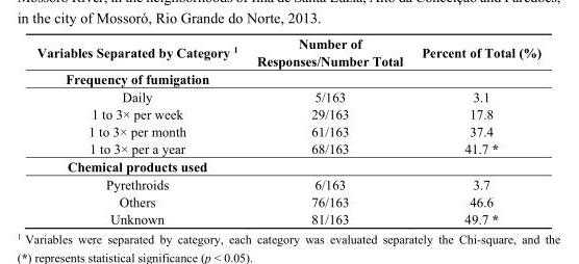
<table><thead><tr><td>Variables Separated by Category <sup>1</sup></td><td>Number of Responses/Number Total</td><td>Percent of Total (%)</td></tr></thead><tbody><tr><td colspan="3">Frequency of fumigation</td></tr><tr><td>Daily</td><td>5/163</td><td>3.1</td></tr><tr><td>1 to 3× per week</td><td>29/163</td><td>17.8</td></tr><tr><td>1 to 3× per month</td><td>61/163</td><td>37.4</td></tr><tr><td>1 to 3× per a year</td><td>68/163</td><td>41.7 *</td></tr><tr><td colspan="3">Chemical products used</td></tr><tr><td>Pyrethroids</td><td>6/163</td><td>3.7</td></tr><tr><td>Others</td><td>76/163</td><td>46.6</td></tr><tr><td>Unknown</td><td>81/163</td><td>49.7 *</td></tr></tbody></table>